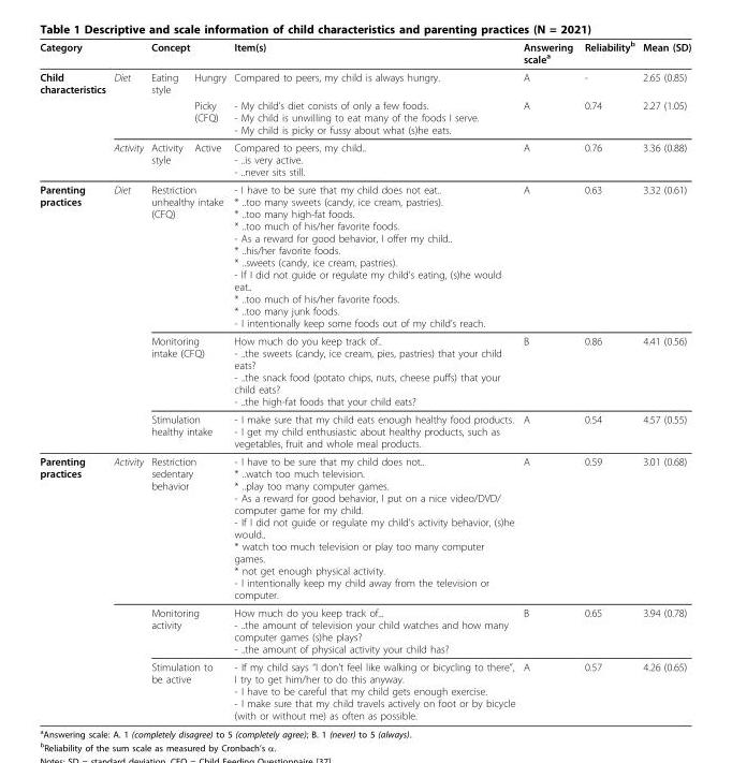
<table><thead><tr><td rowspan="2">Category Child characteristics</td><td rowspan="2">Diet</td><td colspan="2">Concept</td><td rowspan="2">Item(s) Compared to peers, my child is always hungry.</td><td rowspan="2">Answering scale<sup>a</sup> A</td><td rowspan="2">Reliability<sup>b</sup> -</td><td rowspan="2">Mean (SD) 2.65 (0.85)</td></tr><tr><td>Eating style</td><td>Hungry</td></tr></thead><tbody><tr><td></td><td></td><td></td><td>Picky (CFQ)</td><td>- My child’s diet conists of only a few foods. - My child is unwilling to eat many of the foods I serve. - My child is picky or fussy about what (s)he eats.</td><td>A</td><td>0.74</td><td>2.27 (1.05)</td></tr><tr><td></td><td>Activity</td><td>Activity style</td><td>Active</td><td>Compared to peers, my child.. - ..is very active. - ..never sits still.</td><td>A</td><td>0.76</td><td>3.36 (0.88)</td></tr><tr><td rowspan="3">Parenting practices</td><td>Diet</td><td colspan="2">Restriction unhealthy intake (CFQ)</td><td>- I have to be sure that my child does not eat.. * ..too many sweets (candy, ice cream, pastries). * ..too many high-fat foods. * ..too much of his/her favorite foods. - As a reward for good behavior, I offer my child.. * ..his/her favorite foods. * ..sweets (candy, ice cream, pastries). - If I did not guide or regulate my child’s eating, (s)he would eat.. * ..too much of his/her favorite foods. * ..too many junk foods. - I intentionally keep some foods out of my child’s reach.</td><td>A</td><td>0.63</td><td>3.32 (0.61)</td></tr><tr><td></td><td colspan="2">Monitoring intake (CFQ)</td><td>How much do you keep track of.. - ..the sweets (candy, ice cream, pies, pastries) that your child eats? - ..the snack food (potato chips, nuts, cheese puffs) that your child eats? - ..the high-fat foods that your child eats?</td><td>B</td><td>0.86</td><td>4.41 (0.56)</td></tr><tr><td></td><td colspan="2">Stimulation healthy intake</td><td>- I make sure that my child eats enough healthy food products. - I get my child enthusiastic about healthy products, such as vegetables, fruit and whole meal products.</td><td>A</td><td>0.54</td><td>4.57 (0.55)</td></tr><tr><td rowspan="3">Parenting practices</td><td>Activity</td><td colspan="2">Restriction sedentary behavior</td><td>- I have to be sure that my child does not.. * ..watch too much television. * ..play too many computer games. - As a reward for good behavior, I put on a nice video/DVD/ computer game for my child. - If I did not guide or regulate my child’s activity behavior, (s)he would.. * watch too much television or play too many computer games. * not get enough physical activity. - I intentionally keep my child away from the television or computer.</td><td>A</td><td>0.59</td><td>3.01 (0.68)</td></tr><tr><td></td><td colspan="2">Monitoring activity</td><td>How much do you keep track of... - ..the amount of television your child watches and how many computer games (s)he plays? - ..the amount of physical activity your child has?</td><td>B</td><td>0.65</td><td>3.94 (0.78)</td></tr><tr><td></td><td colspan="2">Stimulation to be active</td><td>- If my child says “I don’t feel like walking or bicycling to there”, I try to get him/her to do this anyway. - I have to be careful that my child gets enough exercise. - I make sure that my child travels actively on foot or by bicycle (with or without me) as often as possible.</td><td>A</td><td>0.57</td><td>4.26 (0.65)</td></tr></tbody></table>